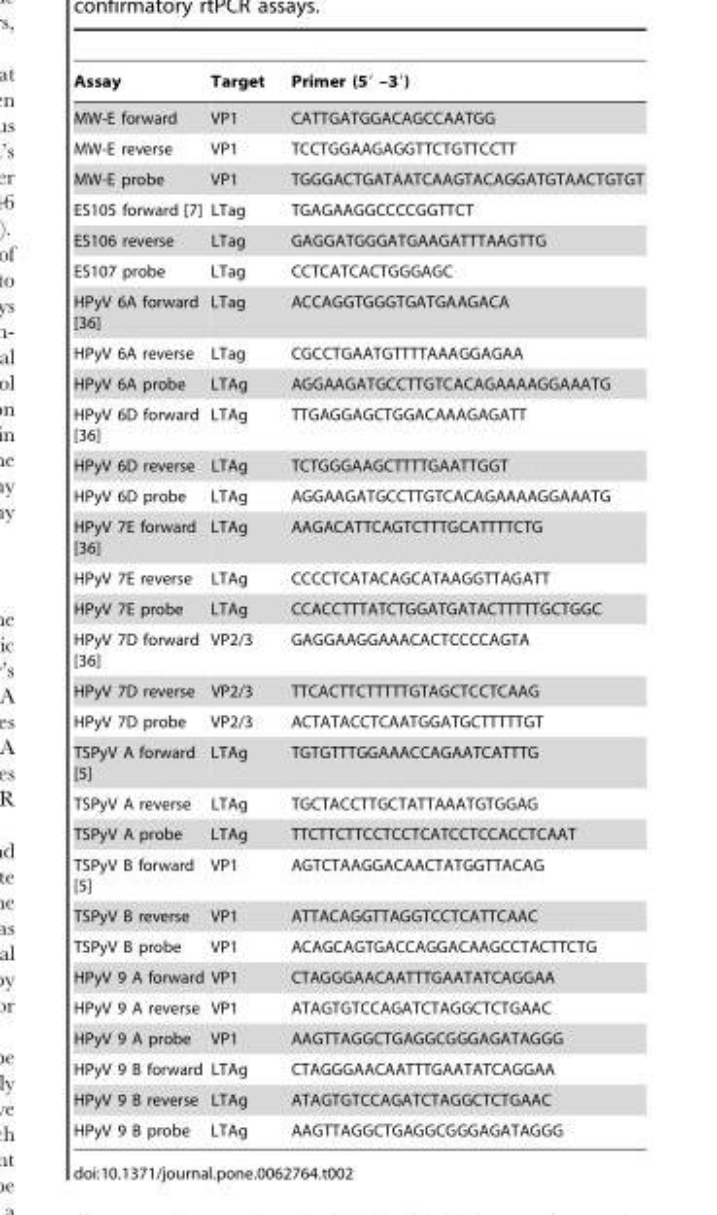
<table><thead><tr><td>Assay</td><td>Target</td><td>Primer (5′ –3′)</td></tr></thead><tbody><tr><td>MW-E forward</td><td>VP1</td><td>CATTGATGGACAGCCAATGG</td></tr><tr><td>MW-E reverse</td><td>VP1</td><td>TCCTGGAAGAGGTTCTGTTCCTT</td></tr><tr><td>MW-E probe</td><td>VP1</td><td>TGGGACTGATAATCAAGTACAGGATGTAACTGTGT</td></tr><tr><td>ES105 forward [7]</td><td>LTag</td><td>TGAGAAGGCCCCGGTTCT</td></tr><tr><td>ES106 reverse</td><td>LTag</td><td>GAGGATGGGATGAAGATTTAAGTTG</td></tr><tr><td>ES107 probe</td><td>LTag</td><td>CCTCATCACTGGGAGC</td></tr><tr><td>HPyV 6A forward [36]</td><td>LTag</td><td>ACCAGGTGGGTGATGAAGACA</td></tr><tr><td>HPyV 6A reverse</td><td>LTag</td><td>CGCCTGAATGTTTTAAAGGAGAA</td></tr><tr><td>HPyV 6A probe</td><td>LTAg</td><td>AGGAAGATGCCTTGTCACAGAAAAGGAAATG</td></tr><tr><td>HPyV 6D forward [36]</td><td>LTAg</td><td>TTGAGGAGCTGGACAAAGAGATT</td></tr><tr><td>HPyV 6D reverse</td><td>LTAg</td><td>TCTGGGAAGCTTTTGAATTGGT</td></tr><tr><td>HPyV 6D probe</td><td>LTAg</td><td>AGGAAGATGCCTTGTCACAGAAAAGGAAATG</td></tr><tr><td>HPyV 7E forward [36]</td><td>LTAg</td><td>AAGACATTCAGTCTTTGCATTTTCTG</td></tr><tr><td>HPyV 7E reverse</td><td>LTAg</td><td>CCCCTCATACAGCATAAGGTTAGATT</td></tr><tr><td>HPyV 7E probe</td><td>LTAg</td><td>CCACCTTTATCTGGATGATACTTTTTGCTGGC</td></tr><tr><td>HPyV 7D forward [36]</td><td>VP2/3</td><td>GAGGAAGGAAACACTCCCCAGTA</td></tr><tr><td>HPyV 7D reverse</td><td>VP2/3</td><td>TTCACTTCTTTTTGTAGCTCCTCAAG</td></tr><tr><td>HPyV 7D probe</td><td>VP2/3</td><td>ACTATACCTCAATGGATGCTTTTTGT</td></tr><tr><td>TSPyV A forward [5]</td><td>LTAg</td><td>TGTGTTTGGAAACCAGAATCATTTG</td></tr><tr><td>TSPyV A reverse</td><td>LTAg</td><td>TGCTACCTTGCTATTAAATGTGGAG</td></tr><tr><td>TSPyV A probe</td><td>LTAg</td><td>TTCTTCTTCCTCCTCATCCTCCACCTCAAT</td></tr><tr><td>TSPyV B forward [5]</td><td>VP1</td><td>AGTCTAAGGACAACTATGGTTACAG</td></tr><tr><td>TSPyV B reverse</td><td>VP1</td><td>ATTACAGGTTAGGTCCTCATTCAAC</td></tr><tr><td>TSPyV B probe</td><td>VP1</td><td>ACAGCAGTGACCAGGACAAGCCTACTTCTG</td></tr><tr><td>HPyV 9 A forward</td><td>VP1</td><td>CTAGGGAACAATTTGAATATCAGGAA</td></tr><tr><td>HPyV 9 A reverse</td><td>VP1</td><td>ATAGTGTCCAGATCTAGGCTCTGAAC</td></tr><tr><td>HPyV 9 A probe</td><td>VP1</td><td>AAGTTAGGCTGAGGCGGGAGATAGGG</td></tr><tr><td>HPyV 9 B forward</td><td>LTAg</td><td>CTAGGGAACAATTTGAATATCAGGAA</td></tr><tr><td>HPyV 9 B reverse</td><td>LTAg</td><td>ATAGTGTCCAGATCTAGGCTCTGAAC</td></tr><tr><td>HPyV 9 B probe</td><td>LTAg</td><td>AAGTTAGGCTGAGGCGGGAGATAGGG</td></tr></tbody></table>